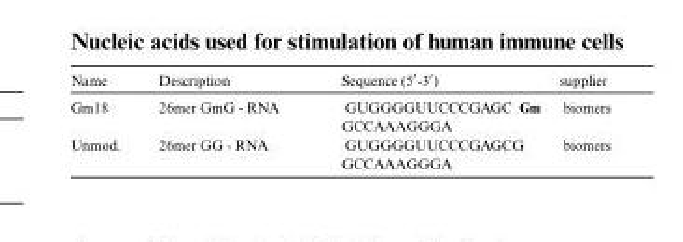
<table><thead><tr><td>Name</td><td>Description</td><td>Sequence (5′-3′)</td><td>supplier</td></tr></thead><tbody><tr><td>Gm18</td><td>26mer GmG - RNA</td><td>GUGGGGUUCCCGAGC Gm GCCAAAGGGA</td><td>biomers</td></tr><tr><td>Unmod.</td><td>26mer GG - RNA</td><td>GUGGGGUUCCCGAGCG GCCAAAGGGA</td><td>biomers</td></tr></tbody></table>